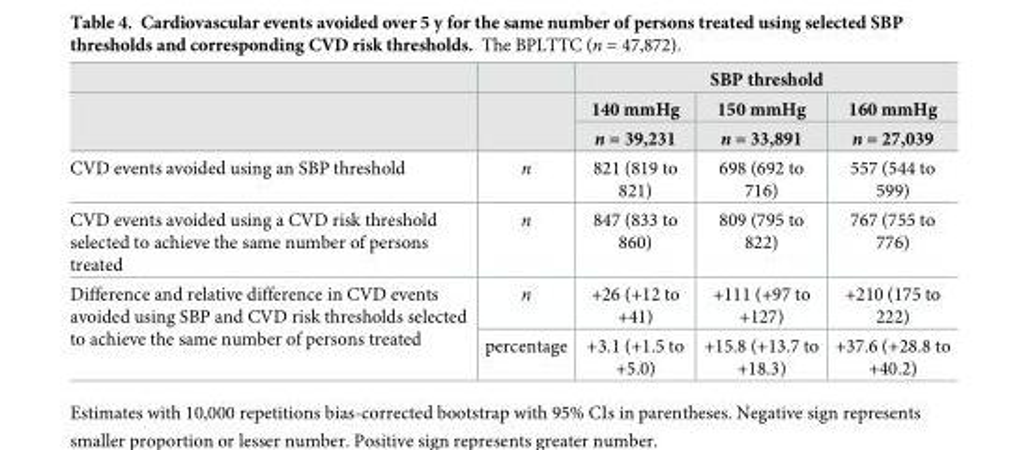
<table><thead><tr><td rowspan="3"></td><td rowspan="3"></td><td colspan="3">SBP threshold</td></tr><tr><td rowspan="2">140 mmHg n = 39,231</td><td rowspan="2">150 mmHg n = 33,891</td><td rowspan="2">160 mmHg n = 27,039</td></tr><tr></tr></thead><tbody><tr><td>CVD events avoided using an SBP threshold</td><td>n</td><td>821 (819 to 821)</td><td>698 (692 to 716)</td><td>557 (544 to 599)</td></tr><tr><td>CVD events avoided using a CVD risk threshold selected to achieve the same number of persons treated</td><td>n</td><td>847 (833 to 860)</td><td>809 (795 to 822)</td><td>767 (755 to 776)</td></tr><tr><td rowspan="2">Difference and relative difference in CVD events avoided using SBP and CVD risk thresholds selected to achieve the same number of persons treated</td><td>n</td><td>+26 (+12 to +41)</td><td>+111 (+97 to +127)</td><td>+210 (175 to 222)</td></tr><tr><td>percentage</td><td>+3.1 (+1.5 to +5.0)</td><td>+15.8 (+13.7 to +18.3)</td><td>+37.6 (+28.8 to +40.2)</td></tr></tbody></table>